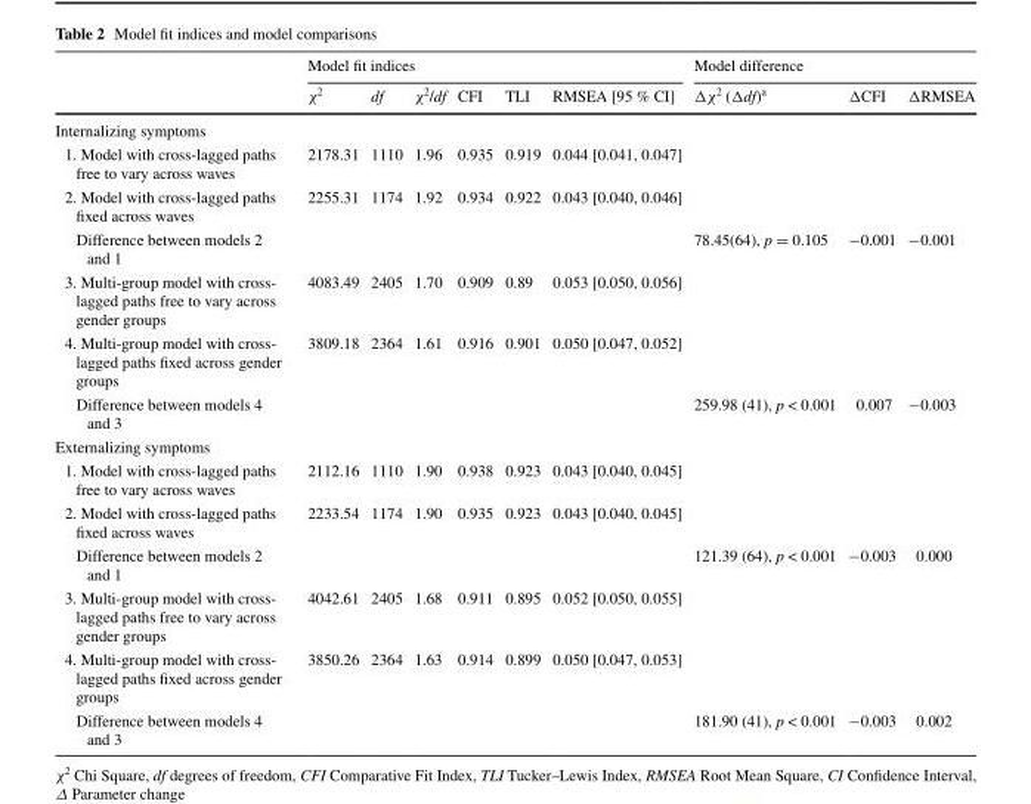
<table><thead><tr><td rowspan="2"></td><td colspan="6">Model fit indices</td><td colspan="3">Model difference</td></tr><tr><td>χ<sup>2</sup></td><td>df</td><td>χ<sup>2</sup>/df</td><td>CFI</td><td>TLI</td><td>RMSEA [95 % CI]</td><td>Δχ<sup>2</sup> (Δdf)<sup>a</sup></td><td>ΔCFI</td><td>ΔRMSEA</td></tr></thead><tbody><tr><td colspan="10">Internalizing symptoms</td></tr><tr><td>1. Model with cross-lagged paths free to vary across waves</td><td>2178.31</td><td>1110</td><td>1.96</td><td>0.935</td><td>0.919</td><td>0.044 [0.041, 0.047]</td><td></td><td></td><td></td></tr><tr><td>2. Model with cross-lagged paths fixed across waves</td><td>2255.31</td><td>1174</td><td>1.92</td><td>0.934</td><td>0.922</td><td>0.043 [0.040, 0.046]</td><td></td><td></td><td></td></tr><tr><td>Difference between models 2 and 1</td><td></td><td></td><td></td><td></td><td></td><td></td><td>78.45(64), p = 0.105</td><td>−0.001</td><td>−0.001</td></tr><tr><td>3. Multi-group model with cross- lagged paths free to vary across gender groups</td><td>4083.49</td><td>2405</td><td>1.70</td><td>0.909</td><td>0.89</td><td>0.053 [0.050, 0.056]</td><td></td><td></td><td></td></tr><tr><td>4. Multi-group model with cross- lagged paths fixed across gender groups</td><td>3809.18</td><td>2364</td><td>1.61</td><td>0.916</td><td>0.901</td><td>0.050 [0.047, 0.052]</td><td></td><td></td><td></td></tr><tr><td>Difference between models 4 and 3</td><td></td><td></td><td></td><td></td><td></td><td></td><td>259.98 (41), p &lt; 0.001</td><td>0.007</td><td>−0.003</td></tr><tr><td colspan="10">Externalizing symptoms</td></tr><tr><td>1. Model with cross-lagged paths free to vary across waves</td><td>2112.16</td><td>1110</td><td>1.90</td><td>0.938</td><td>0.923</td><td>0.043 [0.040, 0.045]</td><td></td><td></td><td></td></tr><tr><td>2. Model with cross-lagged paths fixed across waves</td><td>2233.54</td><td>1174</td><td>1.90</td><td>0.935</td><td>0.923</td><td>0.043 [0.040, 0.045]</td><td></td><td></td><td></td></tr><tr><td>Difference between models 2 and 1</td><td></td><td></td><td></td><td></td><td></td><td></td><td>121.39 (64), p &lt; 0.001</td><td>−0.003</td><td>0.000</td></tr><tr><td>3. Multi-group model with cross- lagged paths free to vary across gender groups</td><td>4042.61</td><td>2405</td><td>1.68</td><td>0.911</td><td>0.895</td><td>0.052 [0.050, 0.055]</td><td></td><td></td><td></td></tr><tr><td>4. Multi-group model with cross- lagged paths fixed across gender groups</td><td>3850.26</td><td>2364</td><td>1.63</td><td>0.914</td><td>0.899</td><td>0.050 [0.047, 0.053]</td><td></td><td></td><td></td></tr><tr><td>Difference between models 4 and 3</td><td></td><td></td><td></td><td></td><td></td><td></td><td>181.90 (41), p &lt; 0.001</td><td>−0.003</td><td>0.002</td></tr></tbody></table>